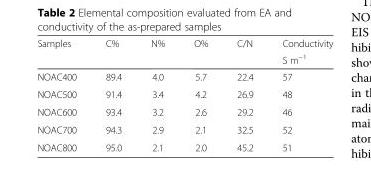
<table><thead><tr><td rowspan="2">Samples</td><td rowspan="2">C%</td><td rowspan="2">N%</td><td rowspan="2">O%</td><td rowspan="2">C/N</td><td rowspan="2">Conductivity S m<sup>−1</sup></td></tr><tr></tr></thead><tbody><tr><td>NOAC400</td><td>89.4</td><td>4.0</td><td>5.7</td><td>22.4</td><td>57</td></tr><tr><td>NOAC500</td><td>91.4</td><td>3.4</td><td>4.2</td><td>26.9</td><td>48</td></tr><tr><td>NOAC600</td><td>93.4</td><td>3.2</td><td>2.6</td><td>29.2</td><td>46</td></tr><tr><td>NOAC700</td><td>94.3</td><td>2.9</td><td>2.1</td><td>32.5</td><td>52</td></tr><tr><td>NOAC800</td><td>95.0</td><td>2.1</td><td>2.0</td><td>45.2</td><td>51</td></tr></tbody></table>